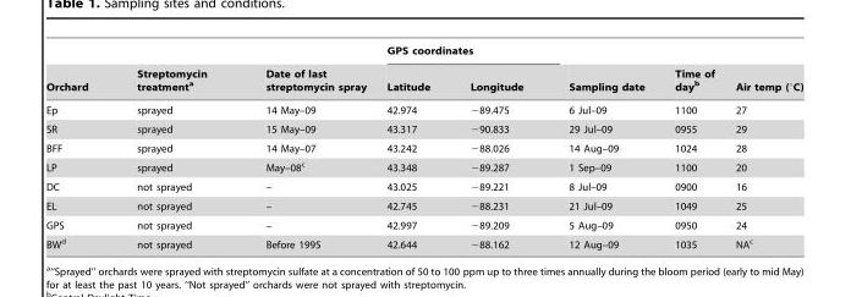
<table><thead><tr><td rowspan="2">Orchard</td><td rowspan="2">Streptomycin treatment<sup>a</sup></td><td rowspan="2">Date of last streptomycin spray</td><td colspan="2">GPS coordinates</td><td rowspan="2">Sampling date</td><td rowspan="2">Time of day<sup>b</sup></td><td rowspan="2">Air temp (°C)</td></tr><tr><td>Latitude</td><td>Longitude</td></tr></thead><tbody><tr><td>Ep</td><td>sprayed</td><td>14 May–09</td><td>42.974</td><td>−89.475</td><td>6 Jul–09</td><td>1100</td><td>27</td></tr><tr><td>SR</td><td>sprayed</td><td>15 May–09</td><td>43.317</td><td>−90.833</td><td>29 Jul–09</td><td>0955</td><td>29</td></tr><tr><td>BFF</td><td>sprayed</td><td>14 May–07</td><td>43.242</td><td>−88.026</td><td>14 Aug–09</td><td>1024</td><td>28</td></tr><tr><td>LP</td><td>sprayed</td><td>May–08<sup>c</sup></td><td>43.348</td><td>−89.287</td><td>1 Sep–09</td><td>1100</td><td>20</td></tr><tr><td>DC</td><td>not sprayed</td><td>–</td><td>43.025</td><td>−89.221</td><td>8 Jul–09</td><td>0900</td><td>16</td></tr><tr><td>EL</td><td>not sprayed</td><td>–</td><td>42.745</td><td>−88.231</td><td>21 Jul–09</td><td>1049</td><td>25</td></tr><tr><td>GPS</td><td>not sprayed</td><td>–</td><td>42.997</td><td>−89.209</td><td>5 Aug–09</td><td>0950</td><td>24</td></tr><tr><td>BW<sup>d</sup></td><td>not sprayed</td><td>Before 1995</td><td>42.644</td><td>−88.162</td><td>12 Aug–09</td><td>1035</td><td>NA<sup>c</sup></td></tr></tbody></table>